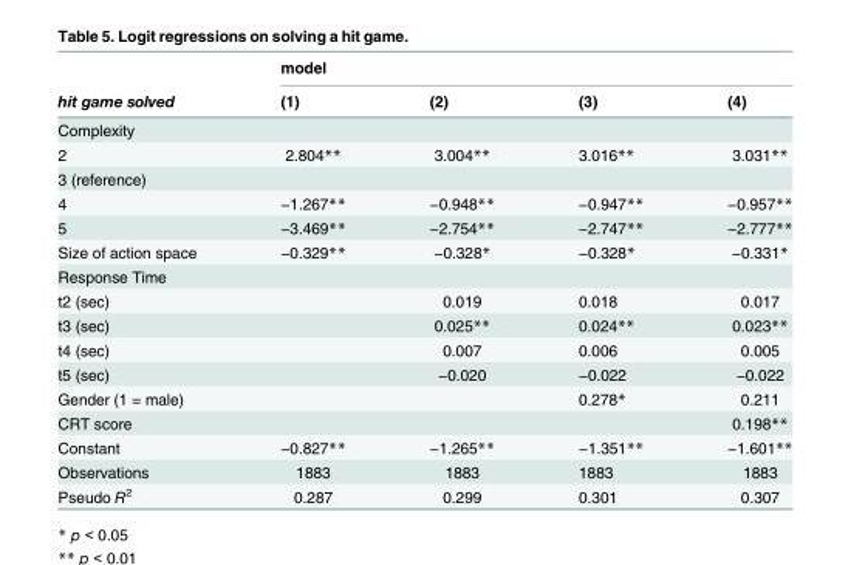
<table><thead><tr><td rowspan="2">hit game solved</td><td colspan="4">model</td></tr><tr><td>(1)</td><td>(2)</td><td>(3)</td><td>(4)</td></tr></thead><tbody><tr><td colspan="5">Complexity</td></tr><tr><td>2</td><td>2.804**</td><td>3.004**</td><td>3.016**</td><td>3.031**</td></tr><tr><td colspan="5">3 (reference)</td></tr><tr><td>4</td><td>−1.267**</td><td>−0.948**</td><td>−0.947**</td><td>−0.957**</td></tr><tr><td>5</td><td>−3.469**</td><td>−2.754**</td><td>−2.747**</td><td>−2.777**</td></tr><tr><td>Size of action space</td><td>−0.329**</td><td>−0.328*</td><td>−0.328*</td><td>−0.331*</td></tr><tr><td colspan="5">Response Time</td></tr><tr><td>t2 (sec)</td><td></td><td>0.019</td><td>0.018</td><td>0.017</td></tr><tr><td>t3 (sec)</td><td></td><td>0.025**</td><td>0.024**</td><td>0.023**</td></tr><tr><td>t4 (sec)</td><td></td><td>0.007</td><td>0.006</td><td>0.005</td></tr><tr><td>t5 (sec)</td><td></td><td>−0.020</td><td>−0.022</td><td>−0.022</td></tr><tr><td>Gender (1 = male)</td><td></td><td></td><td>0.278*</td><td>0.211</td></tr><tr><td>CRT score</td><td></td><td></td><td></td><td>0.198**</td></tr><tr><td>Constant</td><td>−0.827**</td><td>−1.265**</td><td>−1.351**</td><td>−1.601**</td></tr><tr><td>Observations</td><td>1883</td><td>1883</td><td>1883</td><td>1883</td></tr><tr><td>Pseudo R<sup>2</sup></td><td>0.287</td><td>0.299</td><td>0.301</td><td>0.307</td></tr></tbody></table>